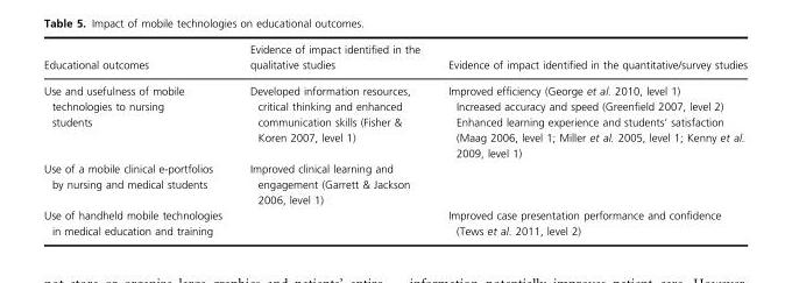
<table><thead><tr><td>Educational outcomes</td><td>Evidence of impact identified in the qualitative studies</td><td>Evidence of impact identified in the quantitative/survey studies</td></tr></thead><tbody><tr><td>Use and usefulness of mobile technologies to nursing students</td><td>Developed information resources, critical thinking and enhanced communication skills (Fisher &amp; Koren 2007, level 1)</td><td>Improved efficiency (George et al. 2010, level 1) Increased accuracy and speed (Greenfield 2007, level 2) Enhanced learning experience and students’ satisfaction (Maag 2006, level 1; Miller et al. 2005, level 1; Kenny et al. 2009, level 1)</td></tr><tr><td>Use of a mobile clinical e-portfolios by nursing and medical students</td><td>Improved clinical learning and engagement (Garrett &amp; Jackson 2006, level 1)</td><td></td></tr><tr><td>Use of handheld mobile technologies in medical education and training</td><td></td><td>Improved case presentation performance and confidence (Tews et al. 2011, level 2)</td></tr></tbody></table>